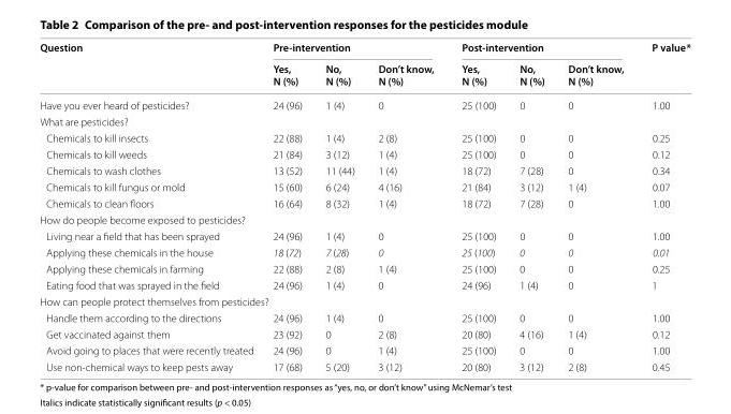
<table><thead><tr><td rowspan="2">Question</td><td colspan="3">Pre‑intervention</td><td colspan="3">Post‑intervention</td><td rowspan="2">P value*</td></tr><tr><td>Yes, N (%)</td><td>No, N (%)</td><td>Don’t know, N (%)</td><td>Yes, N (%)</td><td>No, N (%)</td><td>Don’t know, N (%)</td></tr></thead><tbody><tr><td>Have you ever heard of pesticides?</td><td>24 (96)</td><td>1 (4)</td><td>0</td><td>25 (100)</td><td>0</td><td>0</td><td>1.00</td></tr><tr><td colspan="8">What are pesticides?</td></tr><tr><td>Chemicals to kill insects</td><td>22 (88)</td><td>1 (4)</td><td>2 (8)</td><td>25 (100)</td><td>0</td><td>0</td><td>0.25</td></tr><tr><td>Chemicals to kill weeds</td><td>21 (84)</td><td>3 (12)</td><td>1 (4)</td><td>25 (100)</td><td>0</td><td>0</td><td>0.12</td></tr><tr><td>Chemicals to wash clothes</td><td>13 (52)</td><td>11 (44)</td><td>1 (4)</td><td>18 (72)</td><td>7 (28)</td><td>0</td><td>0.34</td></tr><tr><td>Chemicals to kill fungus or mold</td><td>15 (60)</td><td>6 (24)</td><td>4 (16)</td><td>21 (84)</td><td>3 (12)</td><td>1 (4)</td><td>0.07</td></tr><tr><td>Chemicals to clean floors</td><td>16 (64)</td><td>8 (32)</td><td>1 (4)</td><td>18 (72)</td><td>7 (28)</td><td>0</td><td>1.00</td></tr><tr><td colspan="8">How do people become exposed to pesticides?</td></tr><tr><td>Living near a field that has been sprayed</td><td>24 (96)</td><td>1 (4)</td><td>0</td><td>25 (100)</td><td>0</td><td>0</td><td>1.00</td></tr><tr><td>Applying these chemicals in the house</td><td>18 (72)</td><td>7 (28)</td><td>0</td><td>25 (100)</td><td>0</td><td>0</td><td>0.01</td></tr><tr><td>Applying these chemicals in farming</td><td>22 (88)</td><td>2 (8)</td><td>1 (4)</td><td>25 (100)</td><td>0</td><td>0</td><td>0.25</td></tr><tr><td>Eating food that was sprayed in the field</td><td>24 (96)</td><td>1 (4)</td><td>0</td><td>24 (96)</td><td>1 (4)</td><td>0</td><td>1</td></tr><tr><td colspan="8">How can people protect themselves from pesticides?</td></tr><tr><td>Handle them according to the directions</td><td>24 (96)</td><td>1 (4)</td><td>0</td><td>25 (100)</td><td>0</td><td>0</td><td>1.00</td></tr><tr><td>Get vaccinated against them</td><td>23 (92)</td><td>0</td><td>2 (8)</td><td>20 (80)</td><td>4 (16)</td><td>1 (4)</td><td>0.12</td></tr><tr><td>Avoid going to places that were recently treated</td><td>24 (96)</td><td>0</td><td>1 (4)</td><td>25 (100)</td><td>0</td><td>0</td><td>1.00</td></tr><tr><td>Use non‑chemical ways to keep pests away</td><td>17 (68)</td><td>5 (20)</td><td>3 (12)</td><td>20 (80)</td><td>3 (12)</td><td>2 (8)</td><td>0.45</td></tr></tbody></table>